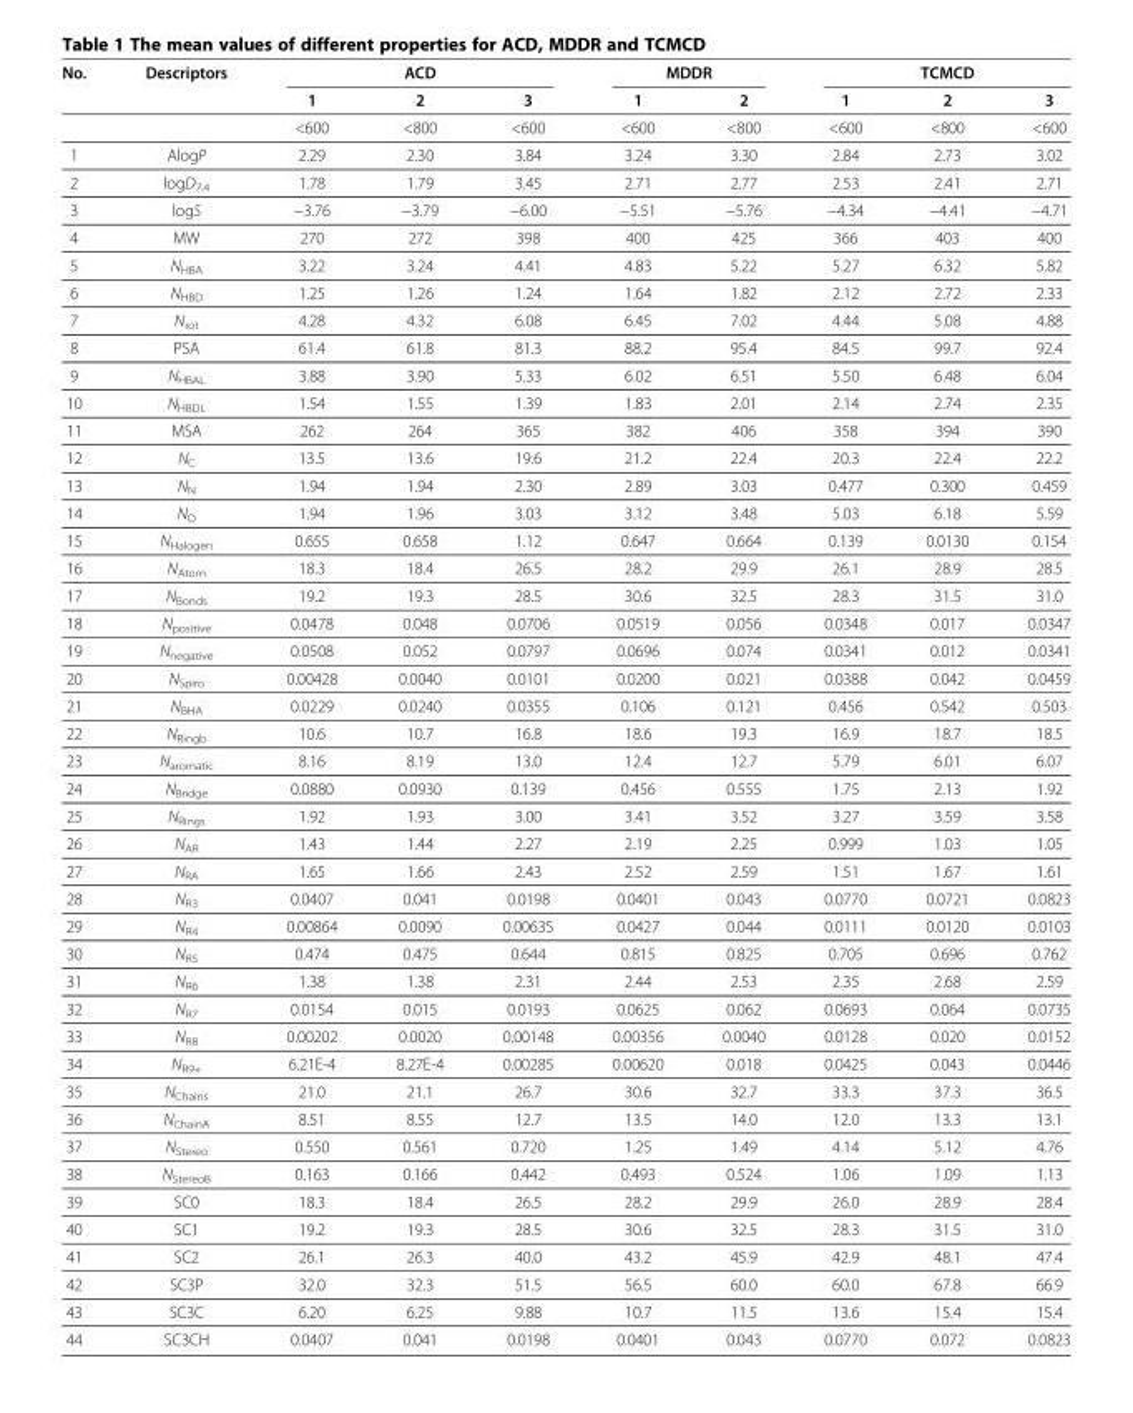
<table><thead><tr><td rowspan="2">No.</td><td rowspan="2">Descriptors</td><td colspan="3">ACD</td><td colspan="2">MDDR</td><td colspan="3">TCMCD</td></tr><tr><td>1</td><td>2</td><td>3</td><td>1</td><td>2</td><td>1</td><td>2</td><td>3</td></tr></thead><tbody><tr><td></td><td></td><td>&lt;600</td><td>&lt;800</td><td>&lt;600</td><td>&lt;600</td><td>&lt;800</td><td>&lt;600</td><td>&lt;800</td><td>&lt;600</td></tr><tr><td>1</td><td>AlogP</td><td>2.29</td><td>2.30</td><td>3.84</td><td>3.24</td><td>3.30</td><td>2.84</td><td>2.73</td><td>3.02</td></tr><tr><td>2</td><td>logD<sub>7.4</sub></td><td>1.78</td><td>1.79</td><td>3.45</td><td>2.71</td><td>2.77</td><td>2.53</td><td>2.41</td><td>2.71</td></tr><tr><td>3</td><td>logS</td><td>−3.76</td><td>−3.79</td><td>−6.00</td><td>−5.51</td><td>−5.76</td><td>−4.34</td><td>−4.41</td><td>−4.71</td></tr><tr><td>4</td><td>MW</td><td>270</td><td>272</td><td>398</td><td>400</td><td>425</td><td>366</td><td>403</td><td>400</td></tr><tr><td>5</td><td>N<sub>HBA</sub></td><td>3.22</td><td>3.24</td><td>4.41</td><td>4.83</td><td>5.22</td><td>5.27</td><td>6.32</td><td>5.82</td></tr><tr><td>6</td><td>N<sub>HBD</sub></td><td>1.25</td><td>1.26</td><td>1.24</td><td>1.64</td><td>1.82</td><td>2.12</td><td>2.72</td><td>2.33</td></tr><tr><td>7</td><td>N<sub>rot</sub></td><td>4.28</td><td>4.32</td><td>6.08</td><td>6.45</td><td>7.02</td><td>4.44</td><td>5.08</td><td>4.88</td></tr><tr><td>8</td><td>PSA</td><td>61.4</td><td>61.8</td><td>81.3</td><td>88.2</td><td>95.4</td><td>84.5</td><td>99.7</td><td>92.4</td></tr><tr><td>9</td><td>N<sub>HBAL</sub></td><td>3.88</td><td>3.90</td><td>5.33</td><td>6.02</td><td>6.51</td><td>5.50</td><td>6.48</td><td>6.04</td></tr><tr><td>10</td><td>N<sub>HBDL</sub></td><td>1.54</td><td>1.55</td><td>1.39</td><td>1.83</td><td>2.01</td><td>2.14</td><td>2.74</td><td>2.35</td></tr><tr><td>11</td><td>MSA</td><td>262</td><td>264</td><td>365</td><td>382</td><td>406</td><td>358</td><td>394</td><td>390</td></tr><tr><td>12</td><td>N<sub>C</sub></td><td>13.5</td><td>13.6</td><td>19.6</td><td>21.2</td><td>22.4</td><td>20.3</td><td>22.4</td><td>22.2</td></tr><tr><td>13</td><td>N<sub>N</sub></td><td>1.94</td><td>1.94</td><td>2.30</td><td>2.89</td><td>3.03</td><td>0.477</td><td>0.300</td><td>0.459</td></tr><tr><td>14</td><td>N<sub>O</sub></td><td>1.94</td><td>1.96</td><td>3.03</td><td>3.12</td><td>3.48</td><td>5.03</td><td>6.18</td><td>5.59</td></tr><tr><td>15</td><td>N<sub>Halogen</sub></td><td>0.655</td><td>0.658</td><td>1.12</td><td>0.647</td><td>0.664</td><td>0.139</td><td>0.0130</td><td>0.154</td></tr><tr><td>16</td><td>N<sub>Atom</sub></td><td>18.3</td><td>18.4</td><td>26.5</td><td>28.2</td><td>29.9</td><td>26.1</td><td>28.9</td><td>28.5</td></tr><tr><td>17</td><td>N<sub>Bonds</sub></td><td>19.2</td><td>19.3</td><td>28.5</td><td>30.6</td><td>32.5</td><td>28.3</td><td>31.5</td><td>31.0</td></tr><tr><td>18</td><td>N<sub>positive</sub></td><td>0.0478</td><td>0.048</td><td>0.0706</td><td>0.0519</td><td>0.056</td><td>0.0348</td><td>0.017</td><td>0.0347</td></tr><tr><td>19</td><td>N<sub>negative</sub></td><td>0.0508</td><td>0.052</td><td>0.0797</td><td>0.0696</td><td>0.074</td><td>0.0341</td><td>0.012</td><td>0.0341</td></tr><tr><td>20</td><td>N<sub>Spiro</sub></td><td>0.00428</td><td>0.0040</td><td>0.0101</td><td>0.0200</td><td>0.021</td><td>0.0388</td><td>0.042</td><td>0.0459</td></tr><tr><td>21</td><td>N<sub>BHA</sub></td><td>0.0229</td><td>0.0240</td><td>0.0355</td><td>0.106</td><td>0.121</td><td>0.456</td><td>0.542</td><td>0.503</td></tr><tr><td>22</td><td>N<sub>Ringb</sub></td><td>10.6</td><td>10.7</td><td>16.8</td><td>18.6</td><td>19.3</td><td>16.9</td><td>18.7</td><td>18.5</td></tr><tr><td>23</td><td>N<sub>aromatic</sub></td><td>8.16</td><td>8.19</td><td>13.0</td><td>12.4</td><td>12.7</td><td>5.79</td><td>6.01</td><td>6.07</td></tr><tr><td>24</td><td>N<sub>Bridge</sub></td><td>0.0880</td><td>0.0930</td><td>0.139</td><td>0.456</td><td>0.555</td><td>1.75</td><td>2.13</td><td>1.92</td></tr><tr><td>25</td><td>N<sub>Rings</sub></td><td>1.92</td><td>1.93</td><td>3.00</td><td>3.41</td><td>3.52</td><td>3.27</td><td>3.59</td><td>3.58</td></tr><tr><td>26</td><td>N<sub>AR</sub></td><td>1.43</td><td>1.44</td><td>2.27</td><td>2.19</td><td>2.25</td><td>0.999</td><td>1.03</td><td>1.05</td></tr><tr><td>27</td><td>N<sub>RA</sub></td><td>1.65</td><td>1.66</td><td>2.43</td><td>2.52</td><td>2.59</td><td>1.51</td><td>1.67</td><td>1.61</td></tr><tr><td>28</td><td>N<sub>R3</sub></td><td>0.0407</td><td>0.041</td><td>0.0198</td><td>0.0401</td><td>0.043</td><td>0.0770</td><td>0.0721</td><td>0.0823</td></tr><tr><td>29</td><td>N<sub>R4</sub></td><td>0.00864</td><td>0.0090</td><td>0.00635</td><td>0.0427</td><td>0.044</td><td>0.0111</td><td>0.0120</td><td>0.0103</td></tr><tr><td>30</td><td>N<sub>R5</sub></td><td>0.474</td><td>0.475</td><td>0.644</td><td>0.815</td><td>0.825</td><td>0.705</td><td>0.696</td><td>0.762</td></tr><tr><td>31</td><td>N<sub>R6</sub></td><td>1.38</td><td>1.38</td><td>2.31</td><td>2.44</td><td>2.53</td><td>2.35</td><td>2.68</td><td>2.59</td></tr><tr><td>32</td><td>N<sub>R7</sub></td><td>0.0154</td><td>0.015</td><td>0.0193</td><td>0.0625</td><td>0.062</td><td>0.0693</td><td>0.064</td><td>0.0735</td></tr><tr><td>33</td><td>N<sub>R8</sub></td><td>0.00202</td><td>0.0020</td><td>0.00148</td><td>0.00356</td><td>0.0040</td><td>0.0128</td><td>0.020</td><td>0.0152</td></tr><tr><td>34</td><td>N<sub>R9+</sub></td><td>6.21E-4</td><td>8.27E-4</td><td>0.00285</td><td>0.00620</td><td>0.018</td><td>0.0425</td><td>0.043</td><td>0.0446</td></tr><tr><td>35</td><td>N<sub>Chains</sub></td><td>21.0</td><td>21.1</td><td>26.7</td><td>30.6</td><td>32.7</td><td>33.3</td><td>37.3</td><td>36.5</td></tr><tr><td>36</td><td>N<sub>ChainA</sub></td><td>8.51</td><td>8.55</td><td>12.7</td><td>13.5</td><td>14.0</td><td>12.0</td><td>13.3</td><td>13.1</td></tr><tr><td>37</td><td>N<sub>Stereo</sub></td><td>0.550</td><td>0.561</td><td>0.720</td><td>1.25</td><td>1.49</td><td>4.14</td><td>5.12</td><td>4.76</td></tr><tr><td>38</td><td>N<sub>StereoB</sub></td><td>0.163</td><td>0.166</td><td>0.442</td><td>0.493</td><td>0.524</td><td>1.06</td><td>1.09</td><td>1.13</td></tr><tr><td>39</td><td>SC0</td><td>18.3</td><td>18.4</td><td>26.5</td><td>28.2</td><td>29.9</td><td>26.0</td><td>28.9</td><td>28.4</td></tr><tr><td>40</td><td>SC1</td><td>19.2</td><td>19.3</td><td>28.5</td><td>30.6</td><td>32.5</td><td>28.3</td><td>31.5</td><td>31.0</td></tr><tr><td>41</td><td>SC2</td><td>26.1</td><td>26.3</td><td>40.0</td><td>43.2</td><td>45.9</td><td>42.9</td><td>48.1</td><td>47.4</td></tr><tr><td>42</td><td>SC3P</td><td>32.0</td><td>32.3</td><td>51.5</td><td>56.5</td><td>60.0</td><td>60.0</td><td>67.8</td><td>66.9</td></tr><tr><td>43</td><td>SC3C</td><td>6.20</td><td>6.25</td><td>9.88</td><td>10.7</td><td>11.5</td><td>13.6</td><td>15.4</td><td>15.4</td></tr><tr><td>44</td><td>SC3CH</td><td>0.0407</td><td>0.041</td><td>0.0198</td><td>0.0401</td><td>0.043</td><td>0.0770</td><td>0.072</td><td>0.0823</td></tr></tbody></table>